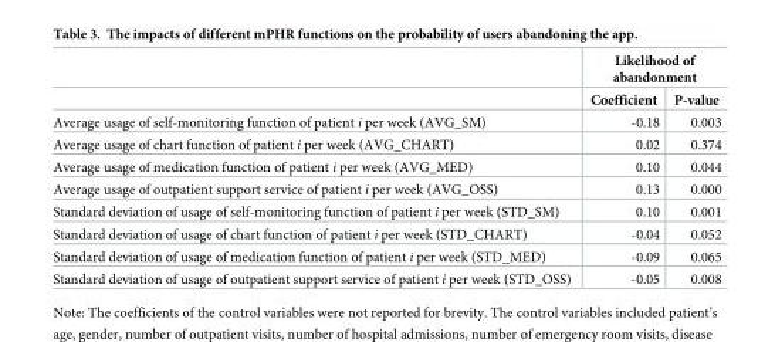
<table><thead><tr><td rowspan="2"></td><td colspan="2">Likelihood of abandonment</td></tr><tr><td>Coefficient</td><td>P-value</td></tr></thead><tbody><tr><td>Average usage of self-monitoring function of patient i per week (AVG_SM)</td><td>-0.18</td><td>0.003</td></tr><tr><td>Average usage of chart function of patient i per week (AVG_CHART)</td><td>0.02</td><td>0.374</td></tr><tr><td>Average usage of medication function of patient i per week (AVG_MED)</td><td>0.10</td><td>0.044</td></tr><tr><td>Average usage of outpatient support service of patient i per week (AVG_OSS)</td><td>0.13</td><td>0.000</td></tr><tr><td>Standard deviation of usage of self-monitoring function of patient i per week (STD_SM)</td><td>0.10</td><td>0.001</td></tr><tr><td>Standard deviation of usage of chart function of patient i per week (STD_CHART)</td><td>-0.04</td><td>0.052</td></tr><tr><td>Standard deviation of usage of medication function of patient i per week (STD_MED)</td><td>-0.09</td><td>0.065</td></tr><tr><td>Standard deviation of usage of outpatient support service of patient i per week (STD_OSS)</td><td>-0.05</td><td>0.008</td></tr></tbody></table>